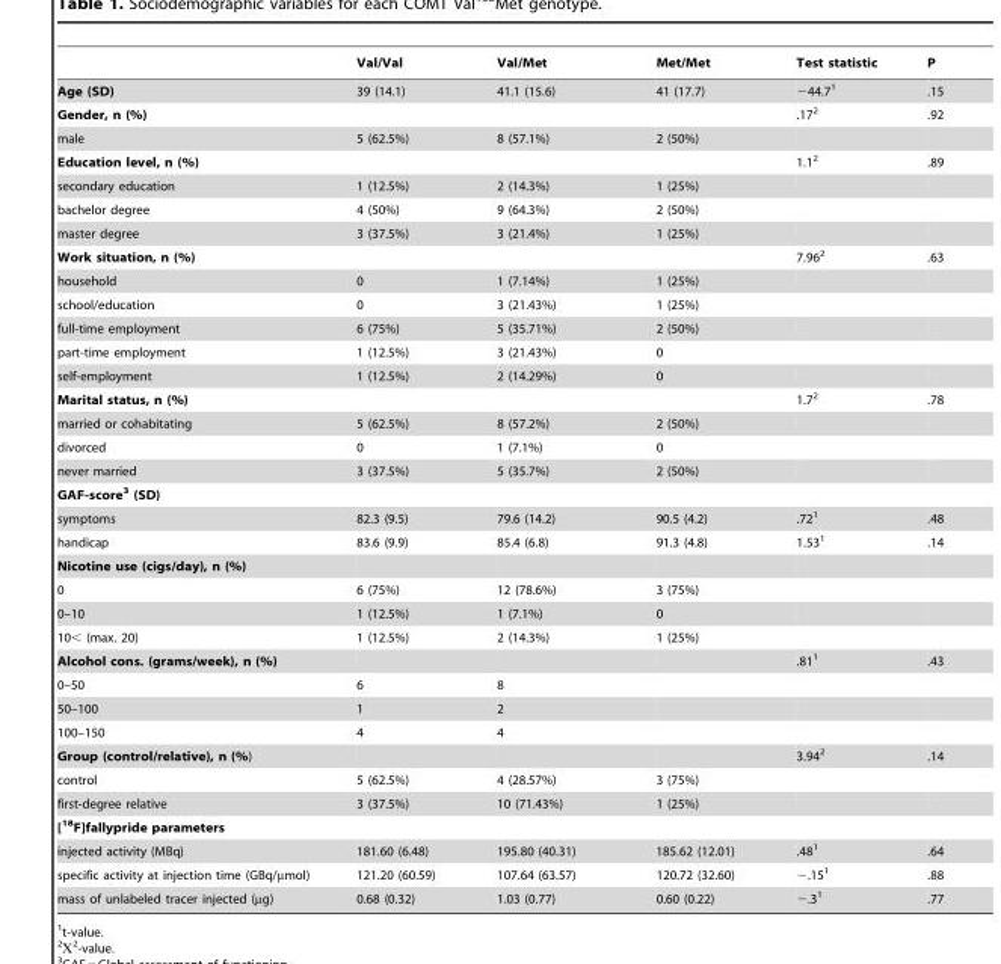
<table><thead><tr><td></td><td>Val/Val</td><td>Val/Met</td><td>Met/Met</td><td>Test statistic</td><td>P</td></tr></thead><tbody><tr><td>Age (SD)</td><td>39 (14.1)</td><td>41.1 (15.6)</td><td>41 (17.7)</td><td>−44.7<sup>1</sup></td><td>.15</td></tr><tr><td>Gender, n (%)</td><td></td><td></td><td></td><td>.17<sup>2</sup></td><td>.92</td></tr><tr><td>male</td><td>5 (62.5%)</td><td>8 (57.1%)</td><td>2 (50%)</td><td></td><td></td></tr><tr><td>Education level, n (%)</td><td></td><td></td><td></td><td>1.1<sup>2</sup></td><td>.89</td></tr><tr><td>secondary education</td><td>1 (12.5%)</td><td>2 (14.3%)</td><td>1 (25%)</td><td></td><td></td></tr><tr><td>bachelor degree</td><td>4 (50%)</td><td>9 (64.3%)</td><td>2 (50%)</td><td></td><td></td></tr><tr><td>master degree</td><td>3 (37.5%)</td><td>3 (21.4%)</td><td>1 (25%)</td><td></td><td></td></tr><tr><td>Work situation, n (%)</td><td></td><td></td><td></td><td>7.96<sup>2</sup></td><td>.63</td></tr><tr><td>household</td><td>0</td><td>1 (7.14%)</td><td>1 (25%)</td><td></td><td></td></tr><tr><td>school/education</td><td>0</td><td>3 (21.43%)</td><td>1 (25%)</td><td></td><td></td></tr><tr><td>full-time employment</td><td>6 (75%)</td><td>5 (35.71%)</td><td>2 (50%)</td><td></td><td></td></tr><tr><td>part-time employment</td><td>1 (12.5%)</td><td>3 (21.43%)</td><td>0</td><td></td><td></td></tr><tr><td>self-employment</td><td>1 (12.5%)</td><td>2 (14.29%)</td><td>0</td><td></td><td></td></tr><tr><td>Marital status, n (%)</td><td></td><td></td><td></td><td>1.7<sup>2</sup></td><td>.78</td></tr><tr><td>married or cohabitating</td><td>5 (62.5%)</td><td>8 (57.2%)</td><td>2 (50%)</td><td></td><td></td></tr><tr><td>divorced</td><td>0</td><td>1 (7.1%)</td><td>0</td><td></td><td></td></tr><tr><td>never married</td><td>3 (37.5%)</td><td>5 (35.7%)</td><td>2 (50%)</td><td></td><td></td></tr><tr><td colspan="6">GAF-score3 (SD)</td></tr><tr><td>symptoms</td><td>82.3 (9.5)</td><td>79.6 (14.2)</td><td>90.5 (4.2)</td><td>.72<sup>1</sup></td><td>.48</td></tr><tr><td>handicap</td><td>83.6 (9.9)</td><td>85.4 (6.8)</td><td>91.3 (4.8)</td><td>1.53<sup>1</sup></td><td>.14</td></tr><tr><td colspan="6">Nicotine use (cigs/day), n (%)</td></tr><tr><td>0</td><td>6 (75%)</td><td>12 (78.6%)</td><td>3 (75%)</td><td></td><td></td></tr><tr><td>0–10</td><td>1 (12.5%)</td><td>1 (7.1%)</td><td>0</td><td></td><td></td></tr><tr><td>10&lt; (max. 20)</td><td>1 (12.5%)</td><td>2 (14.3%)</td><td>1 (25%)</td><td></td><td></td></tr><tr><td>Alcohol cons. (grams/week), n (%)</td><td></td><td></td><td></td><td>.81<sup>1</sup></td><td>.43</td></tr><tr><td>0–50</td><td>6</td><td>8</td><td></td><td></td><td></td></tr><tr><td>50–100</td><td>1</td><td>2</td><td></td><td></td><td></td></tr><tr><td>100–150</td><td>4</td><td>4</td><td></td><td></td><td></td></tr><tr><td>Group (control/relative), n (%)</td><td></td><td></td><td></td><td>3.94<sup>2</sup></td><td>.14</td></tr><tr><td>control</td><td>5 (62.5%)</td><td>4 (28.57%)</td><td>3 (75%)</td><td></td><td></td></tr><tr><td>first-degree relative</td><td>3 (37.5%)</td><td>10 (71.43%)</td><td>1 (25%)</td><td></td><td></td></tr><tr><td colspan="6">[<sup>18</sup>F]fallypride parameters</td></tr><tr><td>injected activity (MBq)</td><td>181.60 (6.48)</td><td>195.80 (40.31)</td><td>185.62 (12.01)</td><td>.48<sup>1</sup></td><td>.64</td></tr><tr><td>specific activity at injection time (GBq/µmol)</td><td>121.20 (60.59)</td><td>107.64 (63.57)</td><td>120.72 (32.60)</td><td>−.15<sup>1</sup></td><td>.88</td></tr><tr><td>mass of unlabeled tracer injected (µg)</td><td>0.68 (0.32)</td><td>1.03 (0.77)</td><td>0.60 (0.22)</td><td>−.3<sup>1</sup></td><td>.77</td></tr></tbody></table>